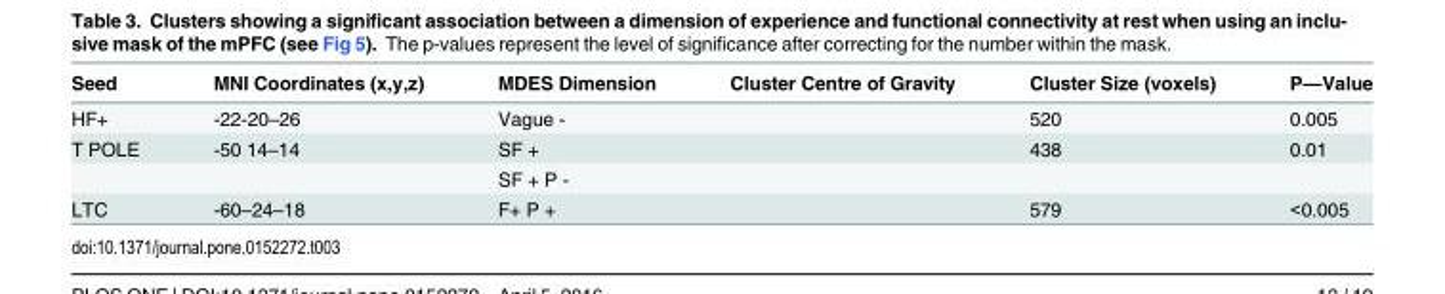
<table><thead><tr><td>Seed</td><td>MNI Coordinates (x,y,z)</td><td>MDES Dimension</td><td>Cluster Centre of Gravity</td><td>Cluster Size (voxels)</td><td>P—Value</td></tr></thead><tbody><tr><td>HF+</td><td>-22-20–26</td><td>Vague -</td><td></td><td>520</td><td>0.005</td></tr><tr><td rowspan="2">T POLE</td><td>-50 14–14</td><td>SF +</td><td></td><td>438</td><td>0.01</td></tr><tr><td></td><td>SF + P -</td><td></td><td></td><td></td></tr><tr><td>LTC</td><td>-60–24–18</td><td>F+ P +</td><td></td><td>579</td><td>&lt;0.005</td></tr></tbody></table>